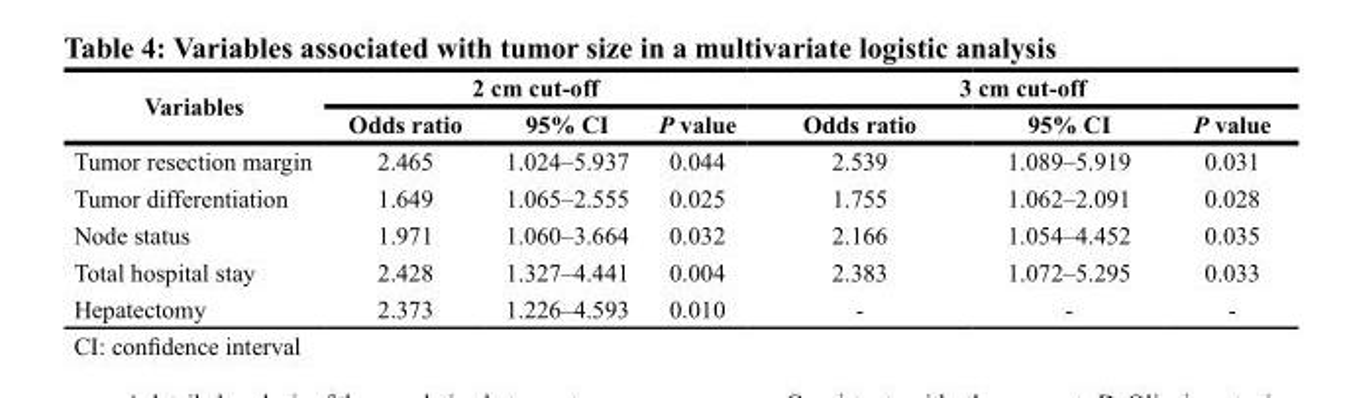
<table><thead><tr><td rowspan="2">Variables</td><td colspan="3">2 cm cut-off</td><td colspan="3">3 cm cut-off</td></tr><tr><td>Odds ratio</td><td>95% CI</td><td>P value</td><td>Odds ratio</td><td>95% CI</td><td>P value</td></tr></thead><tbody><tr><td>Tumor resection margin</td><td>2.465</td><td>1.024–5.937</td><td>0.044</td><td>2.539</td><td>1.089–5.919</td><td>0.031</td></tr><tr><td>Tumor differentiation</td><td>1.649</td><td>1.065–2.555</td><td>0.025</td><td>1.755</td><td>1.062–2.091</td><td>0.028</td></tr><tr><td>Node status</td><td>1.971</td><td>1.060–3.664</td><td>0.032</td><td>2.166</td><td>1.054–4.452</td><td>0.035</td></tr><tr><td>Total hospital stay</td><td>2.428</td><td>1.327–4.441</td><td>0.004</td><td>2.383</td><td>1.072–5.295</td><td>0.033</td></tr><tr><td>Hepatectomy</td><td>2.373</td><td>1.226–4.593</td><td>0.010</td><td>-</td><td>-</td><td>-</td></tr></tbody></table>